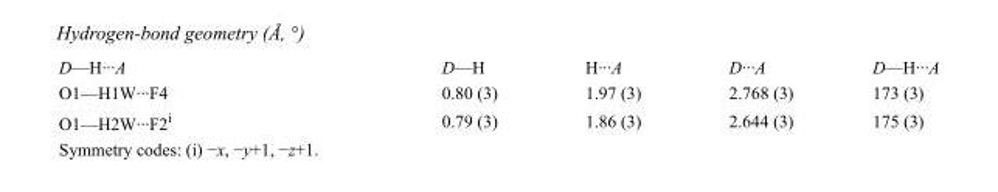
<table><tbody><tr><td>D—H···A</td><td>D—H</td><td>H···A</td><td>D···A</td><td>D—H···A</td></tr><tr><td>O1—H1W···F4</td><td>0.80 (3)</td><td>1.97 (3)</td><td>2.768 (3)</td><td>173 (3)</td></tr><tr><td>O1—H2W···F2<sup>i</sup></td><td>0.79 (3)</td><td>1.86 (3)</td><td>2.644 (3)</td><td>175 (3)</td></tr></tbody></table>